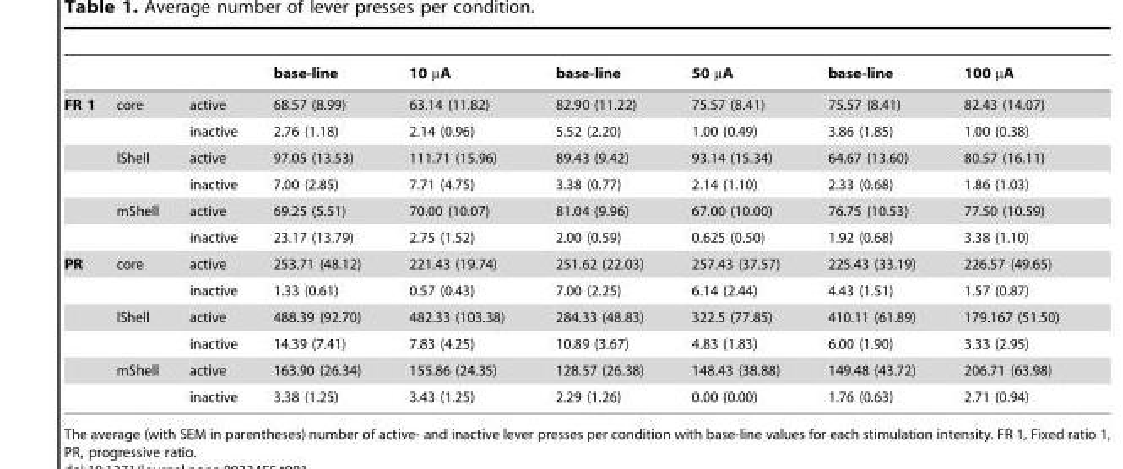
<table><thead><tr><td></td><td></td><td></td><td>base-line</td><td>10 µA</td><td>base-line</td><td>50 µA</td><td>base-line</td><td>100 µA</td></tr></thead><tbody><tr><td rowspan="6">FR 1</td><td>core</td><td>active</td><td>68.57 (8.99)</td><td>63.14 (11.82)</td><td>82.90 (11.22)</td><td>75.57 (8.41)</td><td>75.57 (8.41)</td><td>82.43 (14.07)</td></tr><tr><td></td><td>inactive</td><td>2.76 (1.18)</td><td>2.14 (0.96)</td><td>5.52 (2.20)</td><td>1.00 (0.49)</td><td>3.86 (1.85)</td><td>1.00 (0.38)</td></tr><tr><td>lShell</td><td>active</td><td>97.05 (13.53)</td><td>111.71 (15.96)</td><td>89.43 (9.42)</td><td>93.14 (15.34)</td><td>64.67 (13.60)</td><td>80.57 (16.11)</td></tr><tr><td></td><td>inactive</td><td>7.00 (2.85)</td><td>7.71 (4.75)</td><td>3.38 (0.77)</td><td>2.14 (1.10)</td><td>2.33 (0.68)</td><td>1.86 (1.03)</td></tr><tr><td>mShell</td><td>active</td><td>69.25 (5.51)</td><td>70.00 (10.07)</td><td>81.04 (9.96)</td><td>67.00 (10.00)</td><td>76.75 (10.53)</td><td>77.50 (10.59)</td></tr><tr><td></td><td>inactive</td><td>23.17 (13.79)</td><td>2.75 (1.52)</td><td>2.00 (0.59)</td><td>0.625 (0.50)</td><td>1.92 (0.68)</td><td>3.38 (1.10)</td></tr><tr><td rowspan="6">PR</td><td>core</td><td>active</td><td>253.71 (48.12)</td><td>221.43 (19.74)</td><td>251.62 (22.03)</td><td>257.43 (37.57)</td><td>225.43 (33.19)</td><td>226.57 (49.65)</td></tr><tr><td></td><td>inactive</td><td>1.33 (0.61)</td><td>0.57 (0.43)</td><td>7.00 (2.25)</td><td>6.14 (2.44)</td><td>4.43 (1.51)</td><td>1.57 (0.87)</td></tr><tr><td>lShell</td><td>active</td><td>488.39 (92.70)</td><td>482.33 (103.38)</td><td>284.33 (48.83)</td><td>322.5 (77.85)</td><td>410.11 (61.89)</td><td>179.167 (51.50)</td></tr><tr><td></td><td>inactive</td><td>14.39 (7.41)</td><td>7.83 (4.25)</td><td>10.89 (3.67)</td><td>4.83 (1.83)</td><td>6.00 (1.90)</td><td>3.33 (2.95)</td></tr><tr><td>mShell</td><td>active</td><td>163.90 (26.34)</td><td>155.86 (24.35)</td><td>128.57 (26.38)</td><td>148.43 (38.88)</td><td>149.48 (43.72)</td><td>206.71 (63.98)</td></tr><tr><td></td><td>inactive</td><td>3.38 (1.25)</td><td>3.43 (1.25)</td><td>2.29 (1.26)</td><td>0.00 (0.00)</td><td>1.76 (0.63)</td><td>2.71 (0.94)</td></tr></tbody></table>